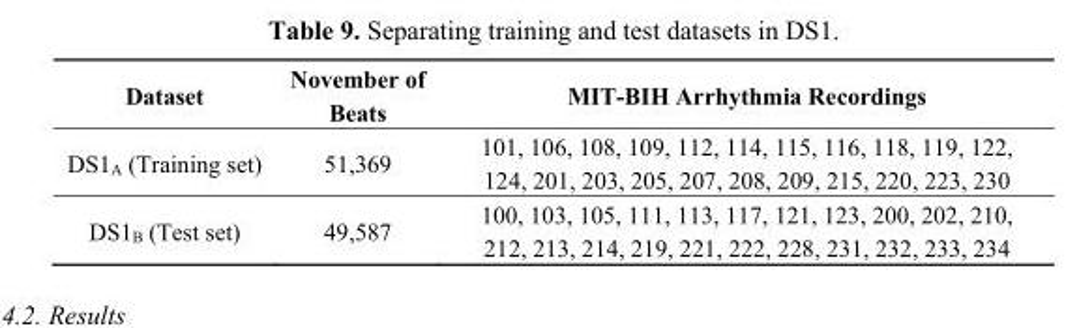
<table><thead><tr><td>Dataset</td><td>November of Beats</td><td>MIT-BIH Arrhythmia Recordings</td></tr></thead><tbody><tr><td>DS1<sub>A</sub> (Training set)</td><td>51,369</td><td>101, 106, 108, 109, 112, 114, 115, 116, 118, 119, 122, 124, 201, 203, 205, 207, 208, 209, 215, 220, 223, 230</td></tr><tr><td>DS1<sub>B</sub> (Test set)</td><td>49,587</td><td>100, 103, 105, 111, 113, 117, 121, 123, 200, 202, 210, 212, 213, 214, 219, 221, 222, 228, 231, 232, 233, 234</td></tr></tbody></table>